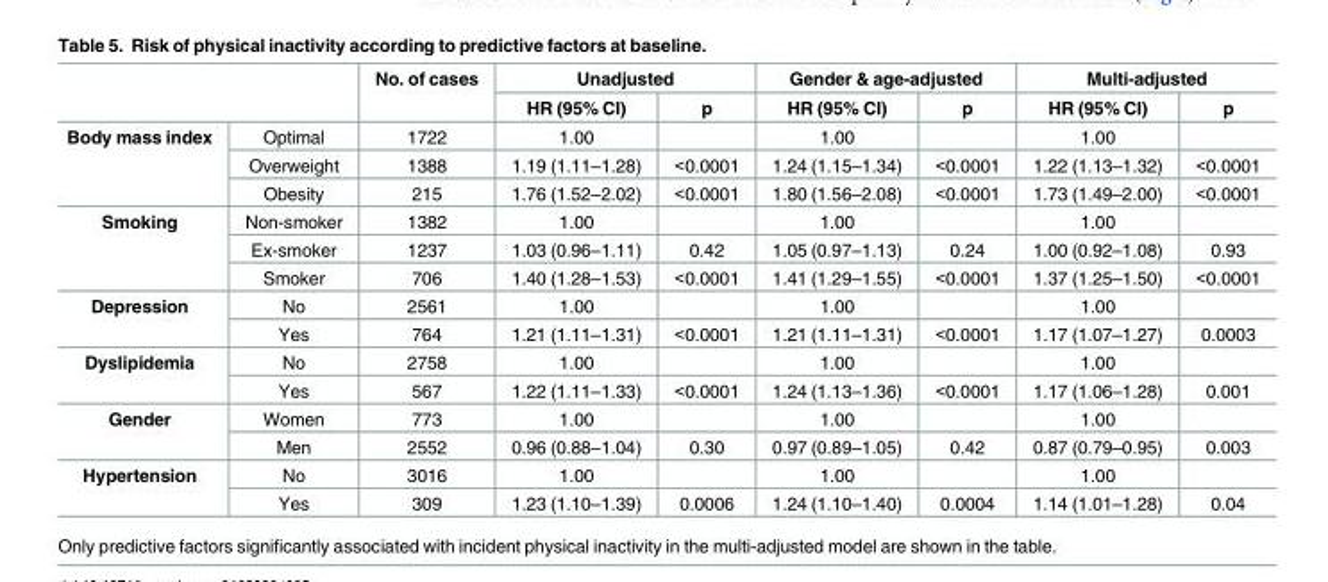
<table><thead><tr><td rowspan="2"></td><td rowspan="2"></td><td rowspan="2">No. of cases</td><td colspan="2">Unadjusted</td><td colspan="2">Gender &amp; age-adjusted</td><td colspan="2">Multi-adjusted</td></tr><tr><td>HR (95% CI)</td><td>p</td><td>HR (95% CI)</td><td>p</td><td>HR (95% CI)</td><td>p</td></tr></thead><tbody><tr><td rowspan="3">Body mass index</td><td>Optimal</td><td>1722</td><td>1.00</td><td></td><td>1.00</td><td></td><td>1.00</td><td></td></tr><tr><td>Overweight</td><td>1388</td><td>1.19 (1.11–1.28)</td><td>&lt;0.0001</td><td>1.24 (1.15–1.34)</td><td>&lt;0.0001</td><td>1.22 (1.13–1.32)</td><td>&lt;0.0001</td></tr><tr><td>Obesity</td><td>215</td><td>1.76 (1.52–2.02)</td><td>&lt;0.0001</td><td>1.80 (1.56–2.08)</td><td>&lt;0.0001</td><td>1.73 (1.49–2.00)</td><td>&lt;0.0001</td></tr><tr><td rowspan="3">Smoking</td><td>Non-smoker</td><td>1382</td><td>1.00</td><td></td><td>1.00</td><td></td><td>1.00</td><td></td></tr><tr><td>Ex-smoker</td><td>1237</td><td>1.03 (0.96–1.11)</td><td>0.42</td><td>1.05 (0.97–1.13)</td><td>0.24</td><td>1.00 (0.92–1.08)</td><td>0.93</td></tr><tr><td>Smoker</td><td>706</td><td>1.40 (1.28–1.53)</td><td>&lt;0.0001</td><td>1.41 (1.29–1.55)</td><td>&lt;0.0001</td><td>1.37 (1.25–1.50)</td><td>&lt;0.0001</td></tr><tr><td rowspan="2">Depression</td><td>No</td><td>2561</td><td>1.00</td><td></td><td>1.00</td><td></td><td>1.00</td><td></td></tr><tr><td>Yes</td><td>764</td><td>1.21 (1.11–1.31)</td><td>&lt;0.0001</td><td>1.21 (1.11–1.31)</td><td>&lt;0.0001</td><td>1.17 (1.07–1.27)</td><td>0.0003</td></tr><tr><td rowspan="2">Dyslipidemia</td><td>No</td><td>2758</td><td>1.00</td><td></td><td>1.00</td><td></td><td>1.00</td><td></td></tr><tr><td>Yes</td><td>567</td><td>1.22 (1.11–1.33)</td><td>&lt;0.0001</td><td>1.24 (1.13–1.36)</td><td>&lt;0.0001</td><td>1.17 (1.06–1.28)</td><td>0.001</td></tr><tr><td rowspan="2">Gender</td><td>Women</td><td>773</td><td>1.00</td><td></td><td>1.00</td><td></td><td>1.00</td><td></td></tr><tr><td>Men</td><td>2552</td><td>0.96 (0.88–1.04)</td><td>0.30</td><td>0.97 (0.89–1.05)</td><td>0.42</td><td>0.87 (0.79–0.95)</td><td>0.003</td></tr><tr><td rowspan="2">Hypertension</td><td>No</td><td>3016</td><td>1.00</td><td></td><td>1.00</td><td></td><td>1.00</td><td></td></tr><tr><td>Yes</td><td>309</td><td>1.23 (1.10–1.39)</td><td>0.0006</td><td>1.24 (1.10–1.40)</td><td>0.0004</td><td>1.14 (1.01–1.28)</td><td>0.04</td></tr></tbody></table>